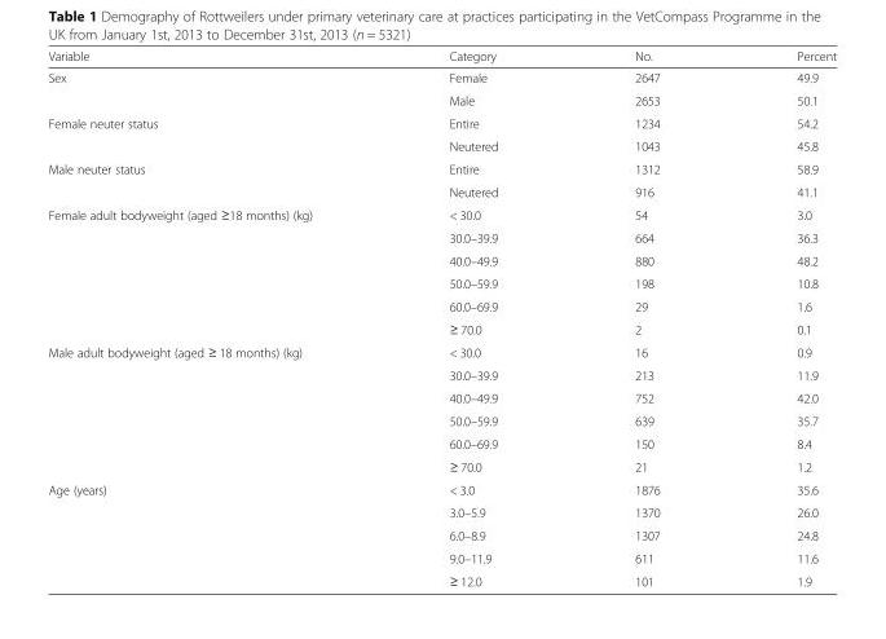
<table><thead><tr><td>Variable</td><td>Category</td><td>No.</td><td>Percent</td></tr></thead><tbody><tr><td rowspan="2">Sex</td><td>Female</td><td>2647</td><td>49.9</td></tr><tr><td>Male</td><td>2653</td><td>50.1</td></tr><tr><td rowspan="2">Female neuter status</td><td>Entire</td><td>1234</td><td>54.2</td></tr><tr><td>Neutered</td><td>1043</td><td>45.8</td></tr><tr><td rowspan="2">Male neuter status</td><td>Entire</td><td>1312</td><td>58.9</td></tr><tr><td>Neutered</td><td>916</td><td>41.1</td></tr><tr><td rowspan="6">Female adult bodyweight (aged ≥18 months) (kg)</td><td>&lt; 30.0</td><td>54</td><td>3.0</td></tr><tr><td>30.0–39.9</td><td>664</td><td>36.3</td></tr><tr><td>40.0–49.9</td><td>880</td><td>48.2</td></tr><tr><td>50.0–59.9</td><td>198</td><td>10.8</td></tr><tr><td>60.0–69.9</td><td>29</td><td>1.6</td></tr><tr><td>≥ 70.0</td><td>2</td><td>0.1</td></tr><tr><td rowspan="6">Male adult bodyweight (aged ≥ 18 months) (kg)</td><td>&lt; 30.0</td><td>16</td><td>0.9</td></tr><tr><td>30.0–39.9</td><td>213</td><td>11.9</td></tr><tr><td>40.0–49.9</td><td>752</td><td>42.0</td></tr><tr><td>50.0–59.9</td><td>639</td><td>35.7</td></tr><tr><td>60.0–69.9</td><td>150</td><td>8.4</td></tr><tr><td>≥ 70.0</td><td>21</td><td>1.2</td></tr><tr><td rowspan="5">Age (years)</td><td>&lt; 3.0</td><td>1876</td><td>35.6</td></tr><tr><td>3.0–5.9</td><td>1370</td><td>26.0</td></tr><tr><td>6.0–8.9</td><td>1307</td><td>24.8</td></tr><tr><td>9.0–11.9</td><td>611</td><td>11.6</td></tr><tr><td>≥ 12.0</td><td>101</td><td>1.9</td></tr></tbody></table>